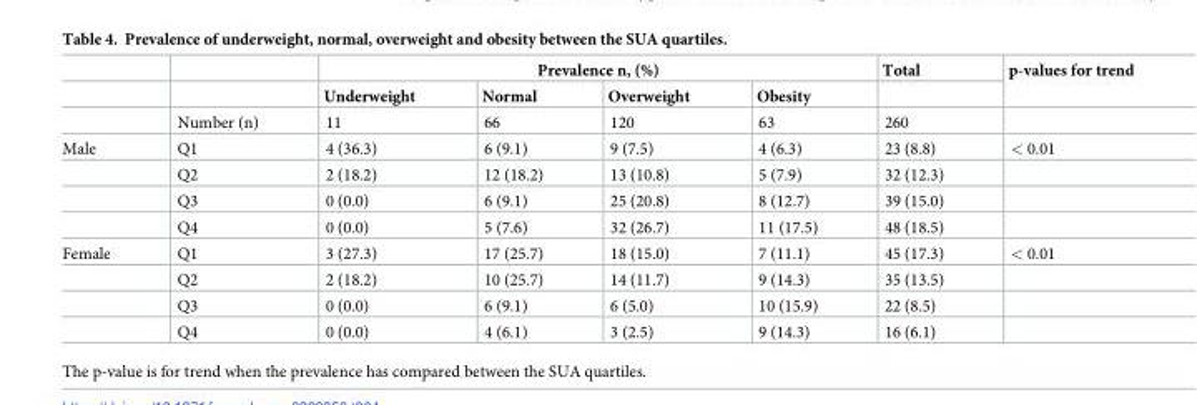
<table><thead><tr><td rowspan="2"></td><td rowspan="2"></td><td colspan="4">Prevalence n, (%)</td><td rowspan="2">Total</td><td rowspan="2">p-values for trend</td></tr><tr><td>Underweight</td><td>Normal</td><td>Overweight</td><td>Obesity</td></tr></thead><tbody><tr><td></td><td>Number (n)</td><td>11</td><td>66</td><td>120</td><td>63</td><td>260</td><td></td></tr><tr><td rowspan="4">Male</td><td>Q1</td><td>4 (36.3)</td><td>6 (9.1)</td><td>9 (7.5)</td><td>4 (6.3)</td><td>23 (8.8)</td><td>&lt; 0.01</td></tr><tr><td>Q2</td><td>2 (18.2)</td><td>12 (18.2)</td><td>13 (10.8)</td><td>5 (7.9)</td><td>32 (12.3)</td><td></td></tr><tr><td>Q3</td><td>0 (0.0)</td><td>6 (9.1)</td><td>25 (20.8)</td><td>8 (12.7)</td><td>39 (15.0)</td><td></td></tr><tr><td>Q4</td><td>0 (0.0)</td><td>5 (7.6)</td><td>32 (26.7)</td><td>11 (17.5)</td><td>48 (18.5)</td><td></td></tr><tr><td rowspan="4">Female</td><td>Q1</td><td>3 (27.3)</td><td>17 (25.7)</td><td>18 (15.0)</td><td>7 (11.1)</td><td>45 (17.3)</td><td>&lt; 0.01</td></tr><tr><td>Q2</td><td>2 (18.2)</td><td>10 (25.7)</td><td>14 (11.7)</td><td>9 (14.3)</td><td>35 (13.5)</td><td></td></tr><tr><td>Q3</td><td>0 (0.0)</td><td>6 (9.1)</td><td>6 (5.0)</td><td>10 (15.9)</td><td>22 (8.5)</td><td></td></tr><tr><td>Q4</td><td>0 (0.0)</td><td>4 (6.1)</td><td>3 (2.5)</td><td>9 (14.3)</td><td>16 (6.1)</td><td></td></tr></tbody></table>